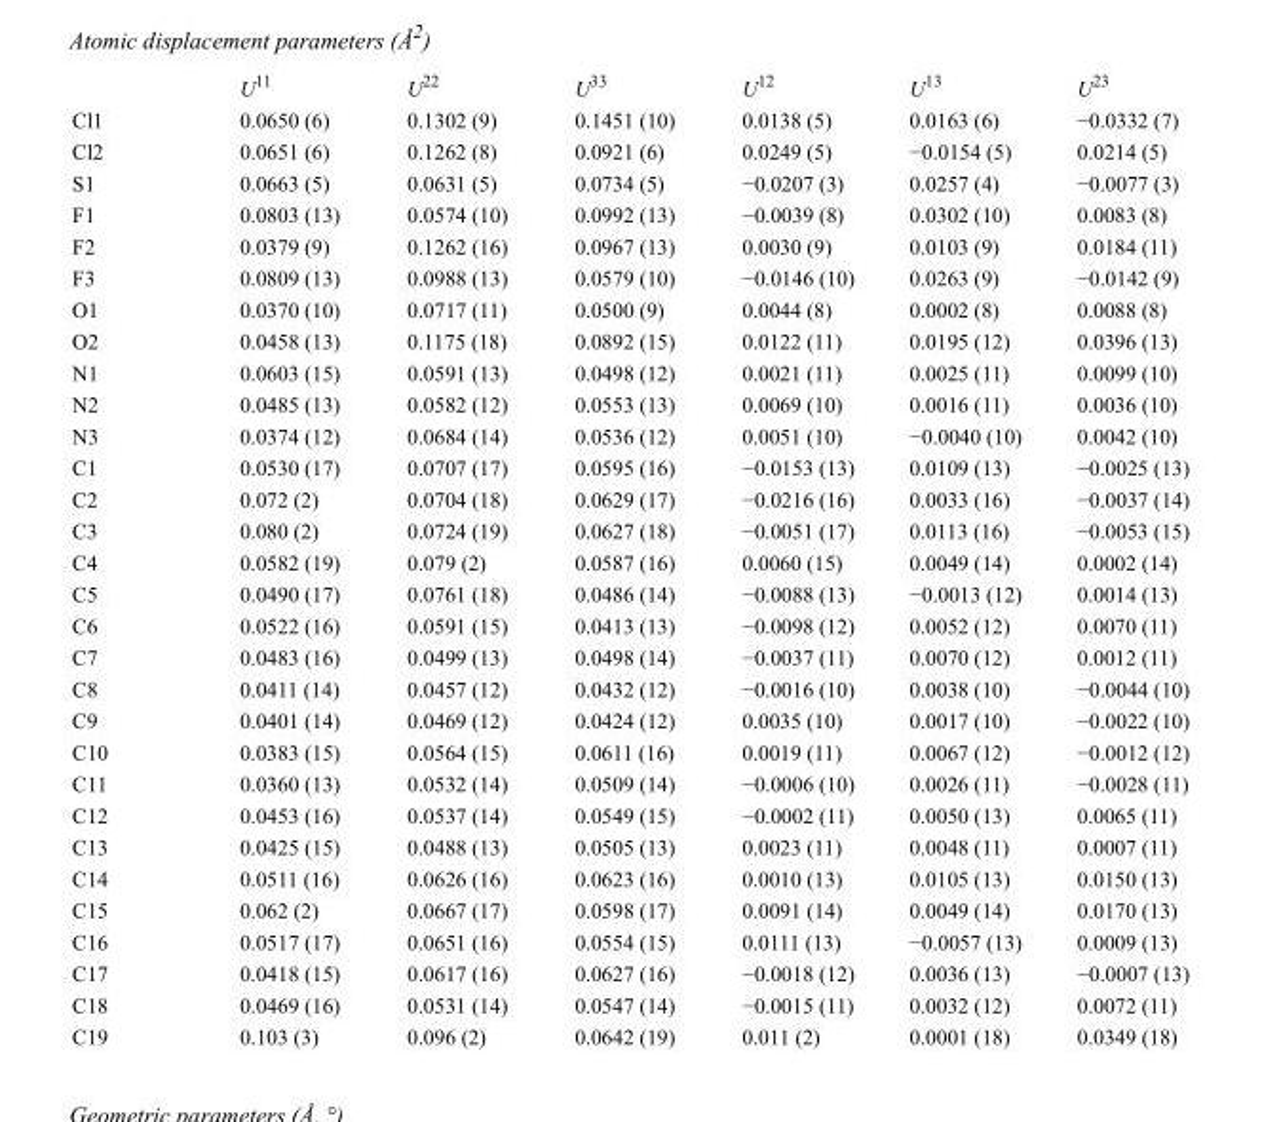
<table><thead><tr><td></td><td>U<sup>11</sup></td><td>U<sup>22</sup></td><td>U<sup>33</sup></td><td>U<sup>12</sup></td><td>U<sup>13</sup></td><td>U<sup>23</sup></td></tr></thead><tbody><tr><td>Cl1</td><td>0.0650 (6)</td><td>0.1302 (9)</td><td>0.1451 (10)</td><td>0.0138 (5)</td><td>0.0163 (6)</td><td>−0.0332 (7)</td></tr><tr><td>Cl2</td><td>0.0651 (6)</td><td>0.1262 (8)</td><td>0.0921 (6)</td><td>0.0249 (5)</td><td>−0.0154 (5)</td><td>0.0214 (5)</td></tr><tr><td>S1</td><td>0.0663 (5)</td><td>0.0631 (5)</td><td>0.0734 (5)</td><td>−0.0207 (3)</td><td>0.0257 (4)</td><td>−0.0077 (3)</td></tr><tr><td>F1</td><td>0.0803 (13)</td><td>0.0574 (10)</td><td>0.0992 (13)</td><td>−0.0039 (8)</td><td>0.0302 (10)</td><td>0.0083 (8)</td></tr><tr><td>F2</td><td>0.0379 (9)</td><td>0.1262 (16)</td><td>0.0967 (13)</td><td>0.0030 (9)</td><td>0.0103 (9)</td><td>0.0184 (11)</td></tr><tr><td>F3</td><td>0.0809 (13)</td><td>0.0988 (13)</td><td>0.0579 (10)</td><td>−0.0146 (10)</td><td>0.0263 (9)</td><td>−0.0142 (9)</td></tr><tr><td>O1</td><td>0.0370 (10)</td><td>0.0717 (11)</td><td>0.0500 (9)</td><td>0.0044 (8)</td><td>0.0002 (8)</td><td>0.0088 (8)</td></tr><tr><td>O2</td><td>0.0458 (13)</td><td>0.1175 (18)</td><td>0.0892 (15)</td><td>0.0122 (11)</td><td>0.0195 (12)</td><td>0.0396 (13)</td></tr><tr><td>N1</td><td>0.0603 (15)</td><td>0.0591 (13)</td><td>0.0498 (12)</td><td>0.0021 (11)</td><td>0.0025 (11)</td><td>0.0099 (10)</td></tr><tr><td>N2</td><td>0.0485 (13)</td><td>0.0582 (12)</td><td>0.0553 (13)</td><td>0.0069 (10)</td><td>0.0016 (11)</td><td>0.0036 (10)</td></tr><tr><td>N3</td><td>0.0374 (12)</td><td>0.0684 (14)</td><td>0.0536 (12)</td><td>0.0051 (10)</td><td>−0.0040 (10)</td><td>0.0042 (10)</td></tr><tr><td>C1</td><td>0.0530 (17)</td><td>0.0707 (17)</td><td>0.0595 (16)</td><td>−0.0153 (13)</td><td>0.0109 (13)</td><td>−0.0025 (13)</td></tr><tr><td>C2</td><td>0.072 (2)</td><td>0.0704 (18)</td><td>0.0629 (17)</td><td>−0.0216 (16)</td><td>0.0033 (16)</td><td>−0.0037 (14)</td></tr><tr><td>C3</td><td>0.080 (2)</td><td>0.0724 (19)</td><td>0.0627 (18)</td><td>−0.0051 (17)</td><td>0.0113 (16)</td><td>−0.0053 (15)</td></tr><tr><td>C4</td><td>0.0582 (19)</td><td>0.079 (2)</td><td>0.0587 (16)</td><td>0.0060 (15)</td><td>0.0049 (14)</td><td>0.0002 (14)</td></tr><tr><td>C5</td><td>0.0490 (17)</td><td>0.0761 (18)</td><td>0.0486 (14)</td><td>−0.0088 (13)</td><td>−0.0013 (12)</td><td>0.0014 (13)</td></tr><tr><td>C6</td><td>0.0522 (16)</td><td>0.0591 (15)</td><td>0.0413 (13)</td><td>−0.0098 (12)</td><td>0.0052 (12)</td><td>0.0070 (11)</td></tr><tr><td>C7</td><td>0.0483 (16)</td><td>0.0499 (13)</td><td>0.0498 (14)</td><td>−0.0037 (11)</td><td>0.0070 (12)</td><td>0.0012 (11)</td></tr><tr><td>C8</td><td>0.0411 (14)</td><td>0.0457 (12)</td><td>0.0432 (12)</td><td>−0.0016 (10)</td><td>0.0038 (10)</td><td>−0.0044 (10)</td></tr><tr><td>C9</td><td>0.0401 (14)</td><td>0.0469 (12)</td><td>0.0424 (12)</td><td>0.0035 (10)</td><td>0.0017 (10)</td><td>−0.0022 (10)</td></tr><tr><td>C10</td><td>0.0383 (15)</td><td>0.0564 (15)</td><td>0.0611 (16)</td><td>0.0019 (11)</td><td>0.0067 (12)</td><td>−0.0012 (12)</td></tr><tr><td>C11</td><td>0.0360 (13)</td><td>0.0532 (14)</td><td>0.0509 (14)</td><td>−0.0006 (10)</td><td>0.0026 (11)</td><td>−0.0028 (11)</td></tr><tr><td>C12</td><td>0.0453 (16)</td><td>0.0537 (14)</td><td>0.0549 (15)</td><td>−0.0002 (11)</td><td>0.0050 (13)</td><td>0.0065 (11)</td></tr><tr><td>C13</td><td>0.0425 (15)</td><td>0.0488 (13)</td><td>0.0505 (13)</td><td>0.0023 (11)</td><td>0.0048 (11)</td><td>0.0007 (11)</td></tr><tr><td>C14</td><td>0.0511 (16)</td><td>0.0626 (16)</td><td>0.0623 (16)</td><td>0.0010 (13)</td><td>0.0105 (13)</td><td>0.0150 (13)</td></tr><tr><td>C15</td><td>0.062 (2)</td><td>0.0667 (17)</td><td>0.0598 (17)</td><td>0.0091 (14)</td><td>0.0049 (14)</td><td>0.0170 (13)</td></tr><tr><td>C16</td><td>0.0517 (17)</td><td>0.0651 (16)</td><td>0.0554 (15)</td><td>0.0111 (13)</td><td>−0.0057 (13)</td><td>0.0009 (13)</td></tr><tr><td>C17</td><td>0.0418 (15)</td><td>0.0617 (16)</td><td>0.0627 (16)</td><td>−0.0018 (12)</td><td>0.0036 (13)</td><td>−0.0007 (13)</td></tr><tr><td>C18</td><td>0.0469 (16)</td><td>0.0531 (14)</td><td>0.0547 (14)</td><td>−0.0015 (11)</td><td>0.0032 (12)</td><td>0.0072 (11)</td></tr><tr><td>C19</td><td>0.103 (3)</td><td>0.096 (2)</td><td>0.0642 (19)</td><td>0.011 (2)</td><td>0.0001 (18)</td><td>0.0349 (18)</td></tr></tbody></table>